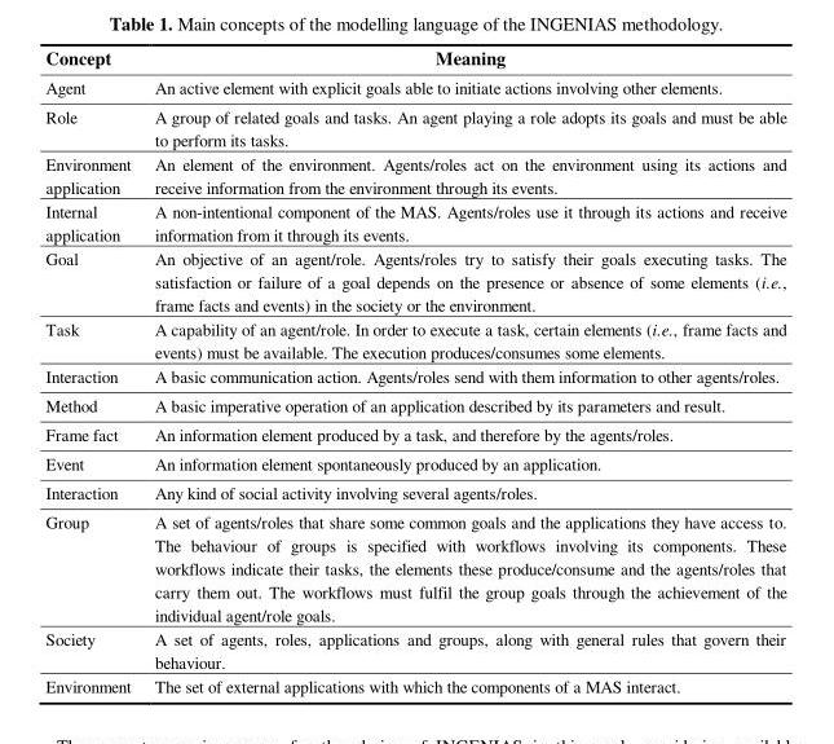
<table><thead><tr><td>Concept</td><td>Meaning</td></tr></thead><tbody><tr><td>Agent</td><td>An active element with explicit goals able to initiate actions involving other elements.</td></tr><tr><td>Role</td><td>A group of related goals and tasks. An agent playing a role adopts its goals and must be able to perform its tasks.</td></tr><tr><td>Environment application</td><td>An element of the environment. Agents/roles act on the environment using its actions and receive information from the environment through its events.</td></tr><tr><td>Internal application</td><td>A non-intentional component of the MAS. Agents/roles use it through its actions and receive information from it through its events.</td></tr><tr><td>Goal</td><td>An objective of an agent/role. Agents/roles try to satisfy their goals executing tasks. The satisfaction or failure of a goal depends on the presence or absence of some elements (i.e., frame facts and events) in the society or the environment.</td></tr><tr><td>Task</td><td>A capability of an agent/role. In order to execute a task, certain elements (i.e., frame facts and events) must be available. The execution produces/consumes some elements.</td></tr><tr><td>Interaction</td><td>A basic communication action. Agents/roles send with them information to other agents/roles.</td></tr><tr><td>Method</td><td>A basic imperative operation of an application described by its parameters and result.</td></tr><tr><td>Frame fact</td><td>An information element produced by a task, and therefore by the agents/roles.</td></tr><tr><td>Event</td><td>An information element spontaneously produced by an application.</td></tr><tr><td>Interaction</td><td>Any kind of social activity involving several agents/roles.</td></tr><tr><td>Group</td><td>A set of agents/roles that share some common goals and the applications they have access to. The behaviour of groups is specified with workflows involving its components. These workflows indicate their tasks, the elements these produce/consume and the agents/roles that carry them out. The workflows must fulfil the group goals through the achievement of the individual agent/role goals.</td></tr><tr><td>Society</td><td>A set of agents, roles, applications and groups, along with general rules that govern their behaviour.</td></tr><tr><td>Environment</td><td>The set of external applications with which the components of a MAS interact.</td></tr></tbody></table>